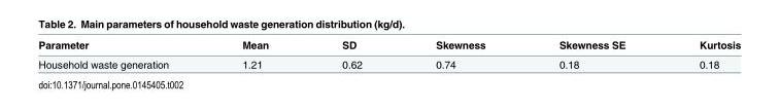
<table><thead><tr><td>Parameter</td><td>Mean</td><td>SD</td><td>Skewness</td><td>Skewness SE</td><td>Kurtosis</td></tr></thead><tbody><tr><td>Household waste generation</td><td>1.21</td><td>0.62</td><td>0.74</td><td>0.18</td><td>0.18</td></tr></tbody></table>